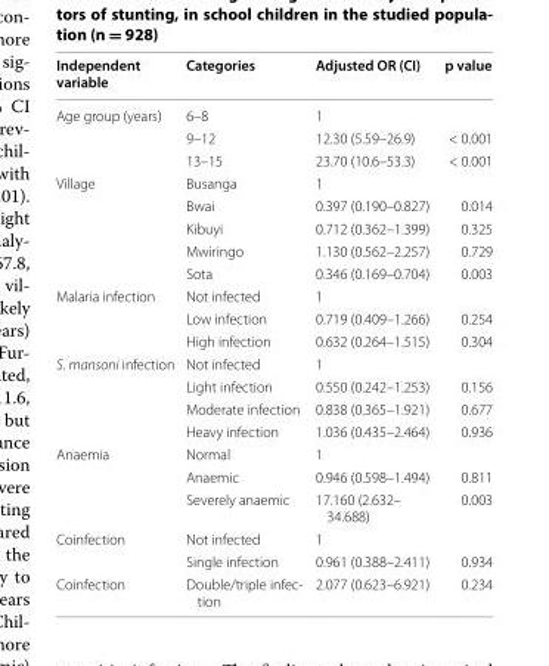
<table><thead><tr><td>Independent variable</td><td>Categories</td><td>Adjusted OR (CI)</td><td>p value</td></tr></thead><tbody><tr><td rowspan="3">Age group (years)</td><td>6–8</td><td>1</td><td></td></tr><tr><td>9–12</td><td>12.30 (5.59–26.9)</td><td>&lt; 0.001</td></tr><tr><td>13–15</td><td>23.70 (10.6–53.3)</td><td>&lt; 0.001</td></tr><tr><td rowspan="5">Village</td><td>Busanga</td><td>1</td><td></td></tr><tr><td>Bwai</td><td>0.397 (0.190–0.827)</td><td>0.014</td></tr><tr><td>Kibuyi</td><td>0.712 (0.362–1.399)</td><td>0.325</td></tr><tr><td>Mwiringo</td><td>1.130 (0.562–2.257)</td><td>0.729</td></tr><tr><td>Sota</td><td>0.346 (0.169–0.704)</td><td>0.003</td></tr><tr><td rowspan="3">Malaria infection</td><td>Not infected</td><td>1</td><td></td></tr><tr><td>Low infection</td><td>0.719 (0.409–1.266)</td><td>0.254</td></tr><tr><td>High infection</td><td>0.632 (0.264–1.515)</td><td>0.304</td></tr><tr><td rowspan="4">S. mansoni infection</td><td>Not infected</td><td>1</td><td></td></tr><tr><td>Light infection</td><td>0.550 (0.242–1.253)</td><td>0.156</td></tr><tr><td>Moderate infection</td><td>0.838 (0.365–1.921)</td><td>0.677</td></tr><tr><td>Heavy infection</td><td>1.036 (0.435–2.464)</td><td>0.936</td></tr><tr><td rowspan="3">Anaemia</td><td>Normal</td><td>1</td><td></td></tr><tr><td>Anaemic</td><td>0.946 (0.598–1.494)</td><td>0.811</td></tr><tr><td>Severely anaemic</td><td>17.160 (2.632– 34.688)</td><td>0.003</td></tr><tr><td rowspan="2">Coinfection</td><td>Not infected</td><td>1</td><td></td></tr><tr><td>Single infection</td><td>0.961 (0.388–2.411)</td><td>0.934</td></tr><tr><td>Coinfection</td><td>Double/triple infec- tion</td><td>2.077 (0.623–6.921)</td><td>0.234</td></tr></tbody></table>